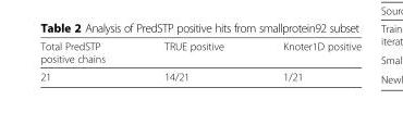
<table><thead><tr><td>Total PredSTP positive chains</td><td>TRUE positive</td><td>Knoter1D positive</td></tr></thead><tbody><tr><td>21</td><td>14/21</td><td>1/21</td></tr></tbody></table>